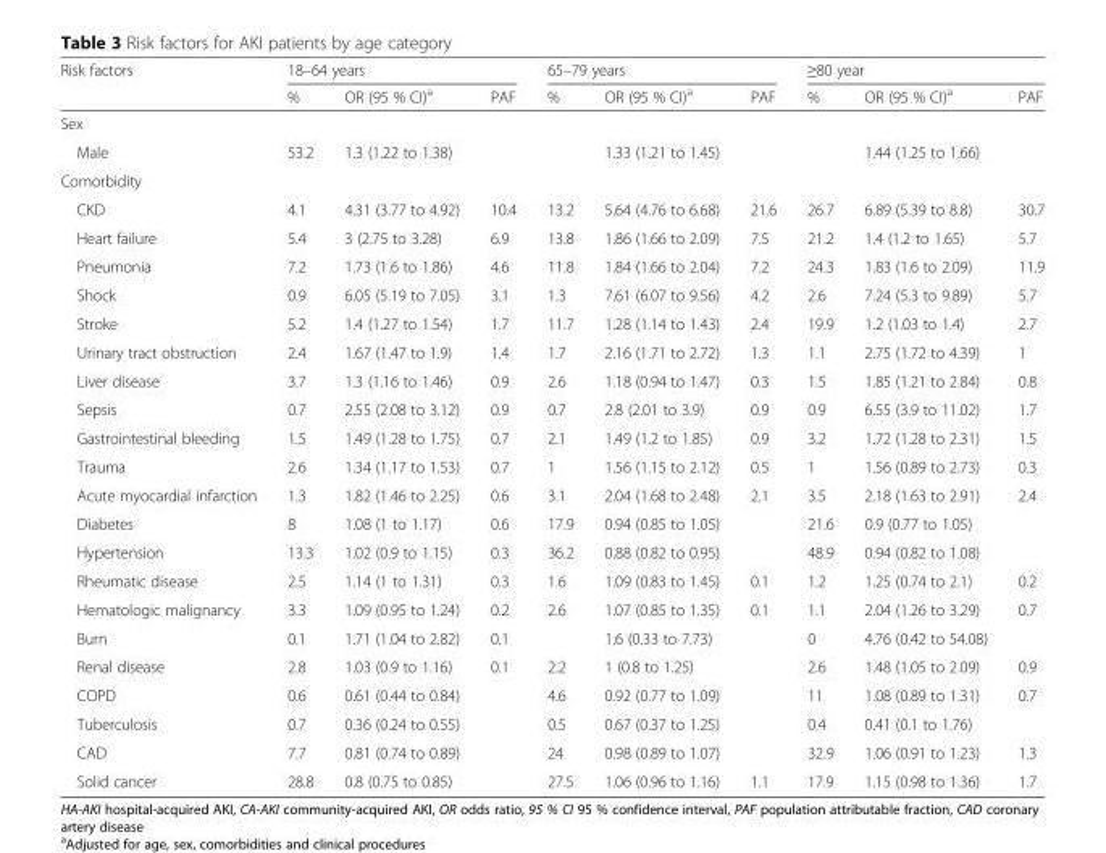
<table><thead><tr><td rowspan="2">Risk factors</td><td colspan="3">18–64 years</td><td colspan="3">65–79 years</td><td colspan="3">≥80 year</td></tr><tr><td>%</td><td>OR (95 % CI)<sup>a</sup></td><td>PAF</td><td>%</td><td>OR (95 % CI)<sup>a</sup></td><td>PAF</td><td>%</td><td>OR (95 % CI)<sup>a</sup></td><td>PAF</td></tr></thead><tbody><tr><td colspan="10">Sex</td></tr><tr><td>Male</td><td>53.2</td><td>1.3 (1.22 to 1.38)</td><td></td><td></td><td>1.33 (1.21 to 1.45)</td><td></td><td></td><td>1.44 (1.25 to 1.66)</td><td></td></tr><tr><td colspan="10">Comorbidity</td></tr><tr><td>CKD</td><td>4.1</td><td>4.31 (3.77 to 4.92)</td><td>10.4</td><td>13.2</td><td>5.64 (4.76 to 6.68)</td><td>21.6</td><td>26.7</td><td>6.89 (5.39 to 8.8)</td><td>30.7</td></tr><tr><td>Heart failure</td><td>5.4</td><td>3 (2.75 to 3.28)</td><td>6.9</td><td>13.8</td><td>1.86 (1.66 to 2.09)</td><td>7.5</td><td>21.2</td><td>1.4 (1.2 to 1.65)</td><td>5.7</td></tr><tr><td>Pneumonia</td><td>7.2</td><td>1.73 (1.6 to 1.86)</td><td>4.6</td><td>11.8</td><td>1.84 (1.66 to 2.04)</td><td>7.2</td><td>24.3</td><td>1.83 (1.6 to 2.09)</td><td>11.9</td></tr><tr><td>Shock</td><td>0.9</td><td>6.05 (5.19 to 7.05)</td><td>3.1</td><td>1.3</td><td>7.61 (6.07 to 9.56)</td><td>4.2</td><td>2.6</td><td>7.24 (5.3 to 9.89)</td><td>5.7</td></tr><tr><td>Stroke</td><td>5.2</td><td>1.4 (1.27 to 1.54)</td><td>1.7</td><td>11.7</td><td>1.28 (1.14 to 1.43)</td><td>2.4</td><td>19.9</td><td>1.2 (1.03 to 1.4)</td><td>2.7</td></tr><tr><td>Urinary tract obstruction</td><td>2.4</td><td>1.67 (1.47 to 1.9)</td><td>1.4</td><td>1.7</td><td>2.16 (1.71 to 2.72)</td><td>1.3</td><td>1.1</td><td>2.75 (1.72 to 4.39)</td><td>1</td></tr><tr><td>Liver disease</td><td>3.7</td><td>1.3 (1.16 to 1.46)</td><td>0.9</td><td>2.6</td><td>1.18 (0.94 to 1.47)</td><td>0.3</td><td>1.5</td><td>1.85 (1.21 to 2.84)</td><td>0.8</td></tr><tr><td>Sepsis</td><td>0.7</td><td>2.55 (2.08 to 3.12)</td><td>0.9</td><td>0.7</td><td>2.8 (2.01 to 3.9)</td><td>0.9</td><td>0.9</td><td>6.55 (3.9 to 11.02)</td><td>1.7</td></tr><tr><td>Gastrointestinal bleeding</td><td>1.5</td><td>1.49 (1.28 to 1.75)</td><td>0.7</td><td>2.1</td><td>1.49 (1.2 to 1.85)</td><td>0.9</td><td>3.2</td><td>1.72 (1.28 to 2.31)</td><td>1.5</td></tr><tr><td>Trauma</td><td>2.6</td><td>1.34 (1.17 to 1.53)</td><td>0.7</td><td>1</td><td>1.56 (1.15 to 2.12)</td><td>0.5</td><td>1</td><td>1.56 (0.89 to 2.73)</td><td>0.3</td></tr><tr><td>Acute myocardial infarction</td><td>1.3</td><td>1.82 (1.46 to 2.25)</td><td>0.6</td><td>3.1</td><td>2.04 (1.68 to 2.48)</td><td>2.1</td><td>3.5</td><td>2.18 (1.63 to 2.91)</td><td>2.4</td></tr><tr><td>Diabetes</td><td>8</td><td>1.08 (1 to 1.17)</td><td>0.6</td><td>17.9</td><td>0.94 (0.85 to 1.05)</td><td></td><td>21.6</td><td>0.9 (0.77 to 1.05)</td><td></td></tr><tr><td>Hypertension</td><td>13.3</td><td>1.02 (0.9 to 1.15)</td><td>0.3</td><td>36.2</td><td>0.88 (0.82 to 0.95)</td><td></td><td>48.9</td><td>0.94 (0.82 to 1.08)</td><td></td></tr><tr><td>Rheumatic disease</td><td>2.5</td><td>1.14 (1 to 1.31)</td><td>0.3</td><td>1.6</td><td>1.09 (0.83 to 1.45)</td><td>0.1</td><td>1.2</td><td>1.25 (0.74 to 2.1)</td><td>0.2</td></tr><tr><td>Hematologic malignancy</td><td>3.3</td><td>1.09 (0.95 to 1.24)</td><td>0.2</td><td>2.6</td><td>1.07 (0.85 to 1.35)</td><td>0.1</td><td>1.1</td><td>2.04 (1.26 to 3.29)</td><td>0.7</td></tr><tr><td>Burn</td><td>0.1</td><td>1.71 (1.04 to 2.82)</td><td>0.1</td><td></td><td>1.6 (0.33 to 7.73)</td><td></td><td>0</td><td>4.76 (0.42 to 54.08)</td><td></td></tr><tr><td>Renal disease</td><td>2.8</td><td>1.03 (0.9 to 1.16)</td><td>0.1</td><td>2.2</td><td>1 (0.8 to 1.25)</td><td></td><td>2.6</td><td>1.48 (1.05 to 2.09)</td><td>0.9</td></tr><tr><td>COPD</td><td>0.6</td><td>0.61 (0.44 to 0.84)</td><td></td><td>4.6</td><td>0.92 (0.77 to 1.09)</td><td></td><td>11</td><td>1.08 (0.89 to 1.31)</td><td>0.7</td></tr><tr><td>Tuberculosis</td><td>0.7</td><td>0.36 (0.24 to 0.55)</td><td></td><td>0.5</td><td>0.67 (0.37 to 1.25)</td><td></td><td>0.4</td><td>0.41 (0.1 to 1.76)</td><td></td></tr><tr><td>CAD</td><td>7.7</td><td>0.81 (0.74 to 0.89)</td><td></td><td>24</td><td>0.98 (0.89 to 1.07)</td><td></td><td>32.9</td><td>1.06 (0.91 to 1.23)</td><td>1.3</td></tr><tr><td>Solid cancer</td><td>28.8</td><td>0.8 (0.75 to 0.85)</td><td></td><td>27.5</td><td>1.06 (0.96 to 1.16)</td><td>1.1</td><td>17.9</td><td>1.15 (0.98 to 1.36)</td><td>1.7</td></tr></tbody></table>